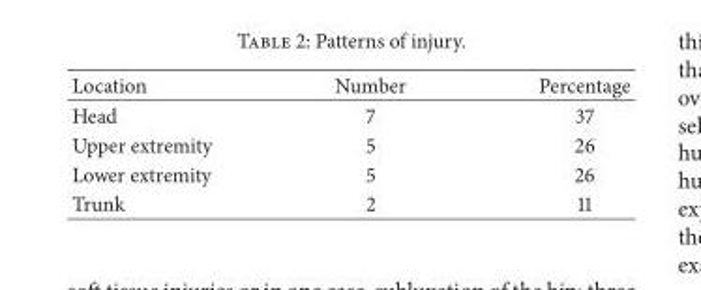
<table><thead><tr><td>Location</td><td>Number</td><td>Percentage</td></tr></thead><tbody><tr><td>Head</td><td>7</td><td>37</td></tr><tr><td>Upper extremity</td><td>5</td><td>26</td></tr><tr><td>Lower extremity</td><td>5</td><td>26</td></tr><tr><td>Trunk</td><td>2</td><td>11</td></tr></tbody></table>